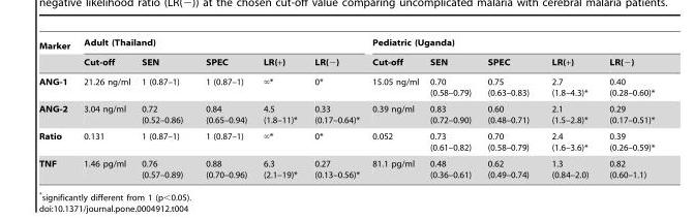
<table><thead><tr><td rowspan="2">Marker</td><td colspan="5">Adult (Thailand)</td><td colspan="5">Pediatric (Uganda)</td></tr><tr><td>Cut-off</td><td>SEN</td><td>SPEC</td><td>LR(+)</td><td>LR(−)</td><td>Cut-off</td><td>SEN</td><td>SPEC</td><td>LR(+)</td><td>LR(−)</td></tr></thead><tbody><tr><td>ANG-1</td><td>21.26 ng/ml</td><td>1 (0.87–1)</td><td>1 (0.87–1)</td><td>‘*</td><td>0*</td><td>15.05 ng/ml</td><td>0.70 (0.58–0.79)</td><td>0.75 (0.63–0.83)</td><td>2.7 (1.8–4.3)*</td><td>0.40 (0.28–0.60)*</td></tr><tr><td>ANG-2</td><td>3.04 ng/ml</td><td>0.72 (0.52–0.86)</td><td>0.84 (0.65–0.94)</td><td>4.5 (1.8–11)*</td><td>0.33 (0.17–0.64)*</td><td>0.39 ng/ml</td><td>0.83 (0.72–0.90)</td><td>0.60 (0.48–0.71)</td><td>2.1 (1.5–2.8)*</td><td>0.29 (0.17–0.51)*</td></tr><tr><td>Ratio</td><td>0.131</td><td>1 (0.87–1)</td><td>1 (0.87–1)</td><td>‘*</td><td>0*</td><td>0.052</td><td>0.73 (0.61–0.82)</td><td>0.70 (0.58–0.79)</td><td>2.4 (1.6–3.6)*</td><td>0.39 (0.26–0.59)*</td></tr><tr><td>TNF</td><td>1.46 pg/ml</td><td>0.76 (0.57–0.89)</td><td>0.88 (0.70–0.96)</td><td>6.3 (2.1–19)*</td><td>0.27 (0.13–0.56)*</td><td>81.1 pg/ml</td><td>0.48 (0.36–0.61)</td><td>0.62 (0.49–0.74)</td><td>1.3 (0.84–2.0)</td><td>0.82 (0.60–1.1)</td></tr></tbody></table>